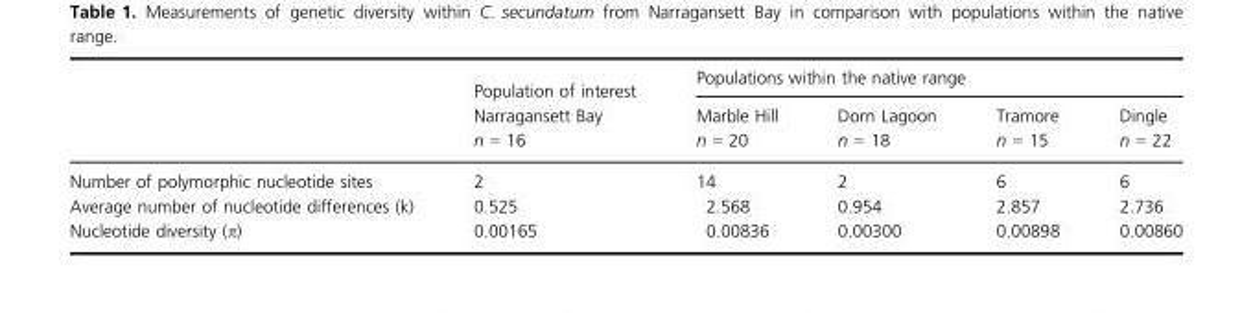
<table><thead><tr><td rowspan="3"></td><td rowspan="3">Population of interest Narragansett Bay n = 16</td><td colspan="4">Populations within the native range</td></tr><tr><td rowspan="2">Marble Hill n = 20</td><td rowspan="2">Dorn Lagoon n = 18</td><td rowspan="2">Tramore n = 15</td><td rowspan="2">Dingle n = 22</td></tr><tr></tr></thead><tbody><tr><td>Number of polymorphic nucleotide sites</td><td>2</td><td>14</td><td>2</td><td>6</td><td>6</td></tr><tr><td>Average number of nucleotide differences (k)</td><td>0.525</td><td>2.568</td><td>0.954</td><td>2.857</td><td>2.736</td></tr><tr><td>Nucleotide diversity (π)</td><td>0.00165</td><td>0.00836</td><td>0.00300</td><td>0.00898</td><td>0.00860</td></tr></tbody></table>